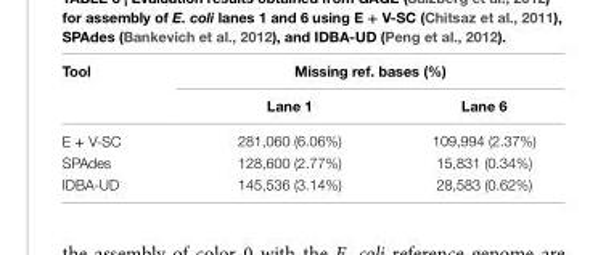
<table><thead><tr><td rowspan="2">tool</td><td colspan="2">Missing ref. bases (%)</td></tr><tr><td>Lane 1</td><td>Lane 6</td></tr></thead><tbody><tr><td>E + V-SC</td><td>281,060 (6.06%)</td><td>109,994 (2.37%)</td></tr><tr><td>SPAdes</td><td>128,600 (2.77%)</td><td>15,831 (0.34%)</td></tr><tr><td>IDBA-UD</td><td>145,536 (3.14%)</td><td>28,583 (0.62%)</td></tr></tbody></table>